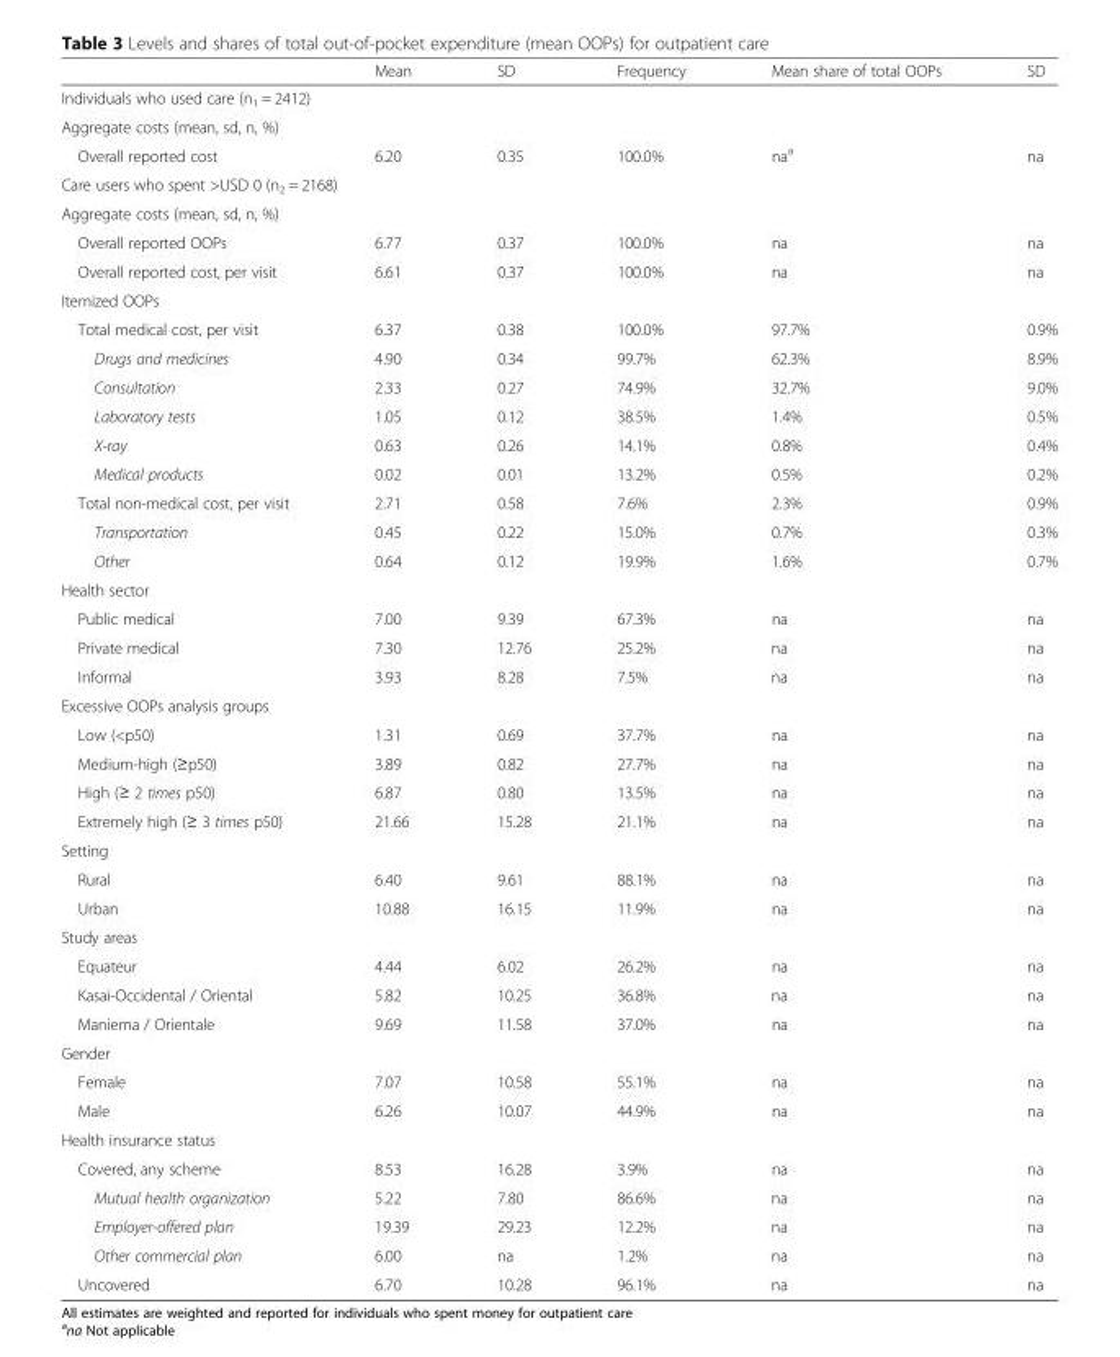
<table><thead><tr><td></td><td>Mean</td><td>SD</td><td>Frequency</td><td>Mean share of total OOPs</td><td>SD</td></tr></thead><tbody><tr><td colspan="6">Individuals who used care (n<sub>1</sub> = 2412)</td></tr><tr><td colspan="6">Aggregate costs (mean, sd, n, %)</td></tr><tr><td>Overall reported cost</td><td>6.20</td><td>0.35</td><td>100.0%</td><td>na<sup>a</sup></td><td>na</td></tr><tr><td colspan="6">Care users who spent &gt;USD 0 (n<sub>2</sub> = 2168)</td></tr><tr><td colspan="6">Aggregate costs (mean, sd, n, %)</td></tr><tr><td>Overall reported OOPs</td><td>6.77</td><td>0.37</td><td>100.0%</td><td>na</td><td>na</td></tr><tr><td>Overall reported cost, per visit</td><td>6.61</td><td>0.37</td><td>100.0%</td><td>na</td><td>na</td></tr><tr><td colspan="6">Itemized OOPs</td></tr><tr><td>Total medical cost, per visit</td><td>6.37</td><td>0.38</td><td>100.0%</td><td>97.7%</td><td>0.9%</td></tr><tr><td>Drugs and medicines</td><td>4.90</td><td>0.34</td><td>99.7%</td><td>62.3%</td><td>8.9%</td></tr><tr><td>Consultation</td><td>2.33</td><td>0.27</td><td>74.9%</td><td>32.7%</td><td>9.0%</td></tr><tr><td>Laboratory tests</td><td>1.05</td><td>0.12</td><td>38.5%</td><td>1.4%</td><td>0.5%</td></tr><tr><td>X-ray</td><td>0.63</td><td>0.26</td><td>14.1%</td><td>0.8%</td><td>0.4%</td></tr><tr><td>Medical products</td><td>0.02</td><td>0.01</td><td>13.2%</td><td>0.5%</td><td>0.2%</td></tr><tr><td>Total non-medical cost, per visit</td><td>2.71</td><td>0.58</td><td>7.6%</td><td>2.3%</td><td>0.9%</td></tr><tr><td>Transportation</td><td>0.45</td><td>0.22</td><td>15.0%</td><td>0.7%</td><td>0.3%</td></tr><tr><td>Other</td><td>0.64</td><td>0.12</td><td>19.9%</td><td>1.6%</td><td>0.7%</td></tr><tr><td colspan="6">Health sector</td></tr><tr><td>Public medical</td><td>7.00</td><td>9.39</td><td>67.3%</td><td>na</td><td>na</td></tr><tr><td>Private medical</td><td>7.30</td><td>12.76</td><td>25.2%</td><td>na</td><td>na</td></tr><tr><td>Informal</td><td>3.93</td><td>8.28</td><td>7.5%</td><td>na</td><td>na</td></tr><tr><td colspan="6">Excessive OOPs analysis groups</td></tr><tr><td>Low (&lt;p50)</td><td>1.31</td><td>0.69</td><td>37.7%</td><td>na</td><td>na</td></tr><tr><td>Medium-high (≥p50)</td><td>3.89</td><td>0.82</td><td>27.7%</td><td>na</td><td>na</td></tr><tr><td>High (≥ 2 times p50)</td><td>6.87</td><td>0.80</td><td>13.5%</td><td>na</td><td>na</td></tr><tr><td>Extremely high (≥ 3 times p50)</td><td>21.66</td><td>15.28</td><td>21.1%</td><td>na</td><td>na</td></tr><tr><td colspan="6">Setting</td></tr><tr><td>Rural</td><td>6.40</td><td>9.61</td><td>88.1%</td><td>na</td><td>na</td></tr><tr><td>Urban</td><td>10.88</td><td>16.15</td><td>11.9%</td><td>na</td><td>na</td></tr><tr><td colspan="6">Study areas</td></tr><tr><td>Equateur</td><td>4.44</td><td>6.02</td><td>26.2%</td><td>na</td><td>na</td></tr><tr><td>Kasai-Occidental / Oriental</td><td>5.82</td><td>10.25</td><td>36.8%</td><td>na</td><td>na</td></tr><tr><td>Maniema / Orientale</td><td>9.69</td><td>11.58</td><td>37.0%</td><td>na</td><td>na</td></tr><tr><td colspan="6">Gender</td></tr><tr><td>Female</td><td>7.07</td><td>10.58</td><td>55.1%</td><td>na</td><td>na</td></tr><tr><td>Male</td><td>6.26</td><td>10.07</td><td>44.9%</td><td>na</td><td>na</td></tr><tr><td colspan="6">Health insurance status</td></tr><tr><td>Covered, any scheme</td><td>8.53</td><td>16.28</td><td>3.9%</td><td>na</td><td>na</td></tr><tr><td>Mutual health organization</td><td>5.22</td><td>7.80</td><td>86.6%</td><td>na</td><td>na</td></tr><tr><td>Employer-offered plan</td><td>19.39</td><td>29.23</td><td>12.2%</td><td>na</td><td>na</td></tr><tr><td>Other commercial plan</td><td>6.00</td><td>na</td><td>1.2%</td><td>na</td><td>na</td></tr><tr><td>Uncovered</td><td>6.70</td><td>10.28</td><td>96.1%</td><td>na</td><td>na</td></tr></tbody></table>